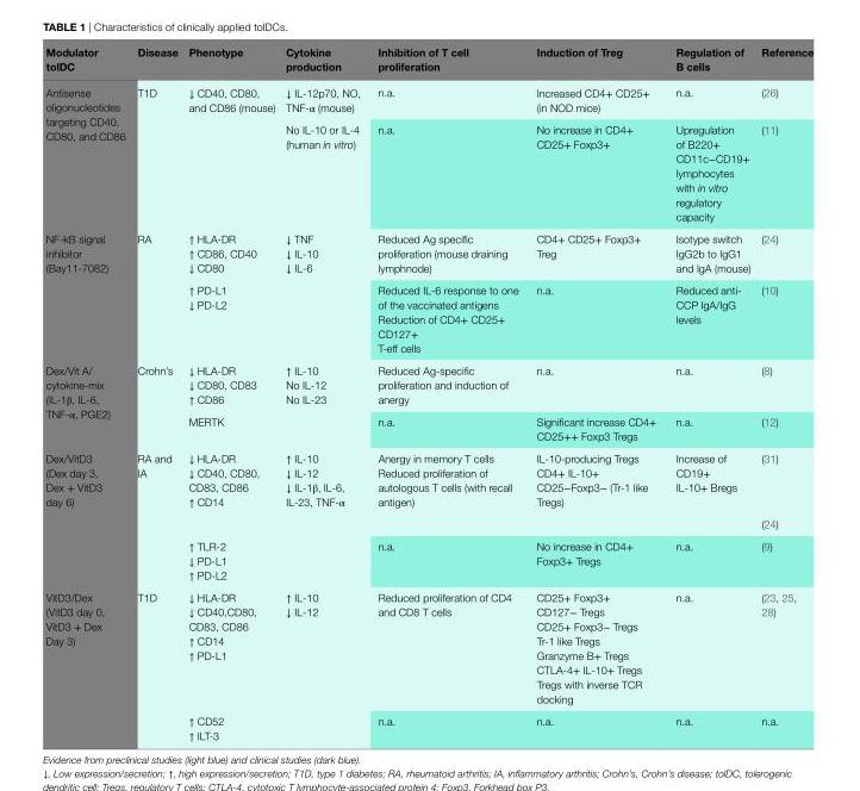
<table><thead><tr><td>Modulator tolDC</td><td>Disease</td><td>Phenotype</td><td>Cytokine production</td><td>inhibition of T cell proliferation</td><td>induction of Treg</td><td>Regulation of b cells</td><td>Reference</td></tr></thead><tbody><tr><td rowspan="2">Antisense oligonucleotides targeting CD40, CD80, and CD86</td><td rowspan="2">T1D</td><td rowspan="2">↓ CD40, CD80, and CD86 (mouse)</td><td rowspan="2">↓ IL-12p70, NO, TNF-α (mouse) No IL-10 or IL-4 (human in vitro)</td><td>n.a.</td><td>Increased CD4+ CD25+ (in NOD mice)</td><td>n.a.</td><td>(26)</td></tr><tr><td>n.a.</td><td>No increase in CD4+ CD25+ Foxp3+</td><td>Upregulation of B220+ CD11c−CD19+ lymphocytes with in vitro regulatory capacity</td><td>(11)</td></tr><tr><td rowspan="2">NF-kB signal inhibitor (Bay11-7082)</td><td rowspan="2">RA</td><td>↑ HLA-DR ↑ CD86, CD40 ↓ CD80</td><td rowspan="2">↓ TNF ↓ IL-10 ↓ IL-6</td><td>Reduced Ag specific proliferation (mouse draining lymphnode)</td><td>CD4+ CD25+ Foxp3+ Treg</td><td>Isotype switch IgG2b to IgG1 and IgA (mouse)</td><td>(24)</td></tr><tr><td>↑ PD-L1 ↓ PD-L2</td><td>Reduced IL-6 response to one of the vaccinated antigens Reduction of CD4+ CD25+ CD127+ T-eff cells</td><td>n.a.</td><td>Reduced anti- CCP IgA/IgG levels</td><td>(10)</td></tr><tr><td rowspan="2">Dex/Vit A/ cytokine-mix (IL-1β, IL-6, TNF-α, PGE2)</td><td rowspan="2">Crohn’s</td><td>↓ HLA-DR ↓ CD80, CD83 ↑ CD86</td><td rowspan="2">↑ IL-10 No IL-12 No IL-23</td><td>Reduced Ag-specific proliferation and induction of anergy</td><td>n.a.</td><td>n.a.</td><td>(8)</td></tr><tr><td>MERTK</td><td>n.a.</td><td>Significant increase CD4+ CD25++ Foxp3 Tregs</td><td>n.a.</td><td>(12)</td></tr><tr><td rowspan="3">Dex/VitD3 (Dex day 3, Dex + VitD3 day 6)</td><td rowspan="3">RA and IA</td><td>↓ HLA-DR ↓ CD40, CD80, CD83, CD86 ↑ CD14</td><td rowspan="3">↑ IL-10 ↓ IL-12 ↓ IL-1β, IL-6, IL-23, TNF-α</td><td rowspan="2">Anergy in memory T cells Reduced proliferation of autologous T cells (with recall antigen)</td><td rowspan="2">IL-10-producing Tregs CD4+ IL-10+ CD25−Foxp3− (Tr-1 like Tregs)</td><td rowspan="2">Increase of CD19+ IL-10+ Bregs</td><td>(31)</td></tr><tr><td></td><td>(24)</td></tr><tr><td>↑ TLR-2 ↓ PD-L1 ↑ PD-L2</td><td>n.a.</td><td>No increase in CD4+ Foxp3+ Tregs</td><td>n.a.</td><td>(9)</td></tr><tr><td rowspan="2">VitD3/Dex (VitD3 day 0, VitD3 + Dex Day 3)</td><td rowspan="2">T1D</td><td>↓ HLA-DR ↓ CD40,CD80, CD83, CD86 ↑ CD14 ↑ PD-L1</td><td rowspan="2">↑ IL-10 ↓ IL-12</td><td>Reduced proliferation of CD4 and CD8 T cells</td><td>CD25+ Foxp3+ CD127− Tregs CD25+ Foxp3− Tregs Tr-1 like Tregs Granzyme B+ Tregs CTLA-4+ IL-10+ Tregs Tregs with inverse TCR docking</td><td>n.a.</td><td>(23, 25, 28)</td></tr><tr><td>↑ CD52 ↑ ILT-3</td><td>n.a.</td><td>n.a.</td><td>n.a.</td><td>n.a.</td></tr></tbody></table>